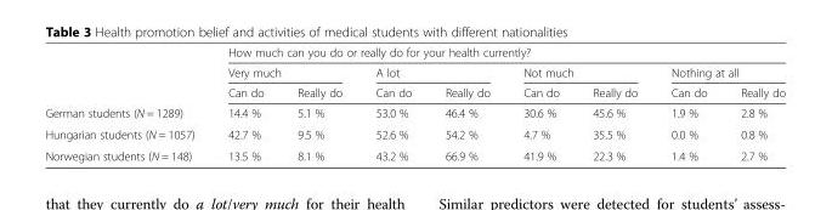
<table><thead><tr><td rowspan="3"></td><td colspan="8">How much can you do or really do for your health currently?</td></tr><tr><td colspan="2">Very much</td><td colspan="2">A lot</td><td colspan="2">Not much</td><td colspan="2">Nothing at all</td></tr><tr><td>Can do</td><td>Really do</td><td>Can do</td><td>Really do</td><td>Can do</td><td>Really do</td><td>Can do</td><td>Really do</td></tr></thead><tbody><tr><td>German students (N = 1289)</td><td>14.4 %</td><td>5.1 %</td><td>53.0 %</td><td>46.4 %</td><td>30.6 %</td><td>45.6 %</td><td>1.9 %</td><td>2.8 %</td></tr><tr><td>Hungarian students (N = 1057)</td><td>42.7 %</td><td>9.5 %</td><td>52.6 %</td><td>54.2 %</td><td>4.7 %</td><td>35.5 %</td><td>0.0 %</td><td>0.8 %</td></tr><tr><td>Norwegian students (N = 148)</td><td>13.5 %</td><td>8.1 %</td><td>43.2 %</td><td>66.9 %</td><td>41.9 %</td><td>22.3 %</td><td>1.4 %</td><td>2.7 %</td></tr></tbody></table>